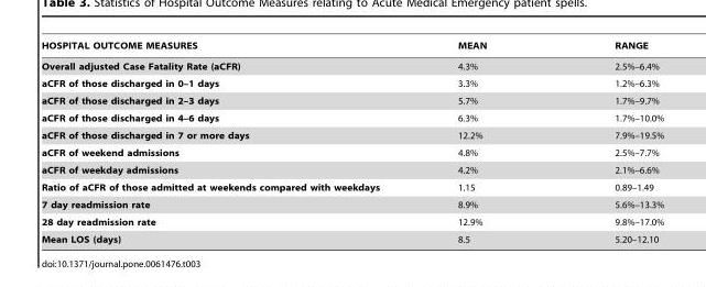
<table><thead><tr><td>HOSPITAL OUTCOME MEASURES</td><td>MEAN</td><td>RANGE</td></tr></thead><tbody><tr><td>Overall adjusted Case Fatality Rate (aCFR)</td><td>4.3%</td><td>2.5%–6.4%</td></tr><tr><td>aCFR of those discharged in 0–1 days</td><td>3.3%</td><td>1.2%–6.3%</td></tr><tr><td>aCFR of those discharged in 2–3 days</td><td>5.7%</td><td>1.7%–9.7%</td></tr><tr><td>aCFR of those discharged in 4–6 days</td><td>6.3%</td><td>1.7%–10.0%</td></tr><tr><td>aCFR of those discharged in 7 or more days</td><td>12.2%</td><td>7.9%–19.5%</td></tr><tr><td>aCFR of weekend admissions</td><td>4.8%</td><td>2.5%–7.7%</td></tr><tr><td>aCFR of weekday admissions</td><td>4.2%</td><td>2.1%–6.6%</td></tr><tr><td>Ratio of aCFR of those admitted at weekends compared with weekdays</td><td>1.15</td><td>0.89–1.49</td></tr><tr><td>7 day readmission rate</td><td>8.9%</td><td>5.6%–13.3%</td></tr><tr><td>28 day readmission rate</td><td>12.9%</td><td>9.8%–17.0%</td></tr><tr><td>Mean LOS (days)</td><td>8.5</td><td>5.20–12.10</td></tr></tbody></table>